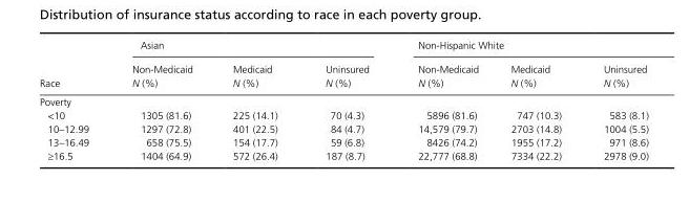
<table><thead><tr><td rowspan="2">Race</td><td colspan="3">Asian</td><td colspan="3">Non- Hispanic White</td></tr><tr><td>Non- Medicaid N (%)</td><td>Medicaid N (%)</td><td>Uninsured N (%)</td><td>Non- Medicaid N (%)</td><td>Medicaid N (%)</td><td>Uninsured N (%)</td></tr></thead><tbody><tr><td colspan="7">Poverty</td></tr><tr><td>&lt;10</td><td>1305 (81.6)</td><td>225 (14.1)</td><td>70 (4.3)</td><td>5896 (81.6)</td><td>747 (10.3)</td><td>583 (8.1)</td></tr><tr><td>10–12.99</td><td>1297 (72.8)</td><td>401 (22.5)</td><td>84 (4.7)</td><td>14,579 (79.7)</td><td>2703 (14.8)</td><td>1004 (5.5)</td></tr><tr><td>13–16.49</td><td>658 (75.5)</td><td>154 (17.7)</td><td>59 (6.8)</td><td>8426 (74.2)</td><td>1955 (17.2)</td><td>971 (8.6)</td></tr><tr><td>≥16.5</td><td>1404 (64.9)</td><td>572 (26.4)</td><td>187 (8.7)</td><td>22,777 (68.8)</td><td>7334 (22.2)</td><td>2978 (9.0)</td></tr></tbody></table>